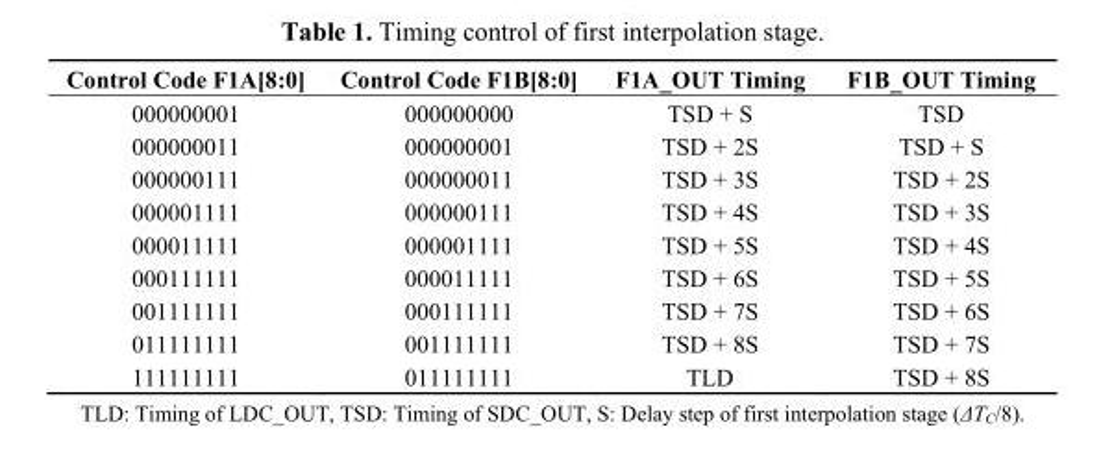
<table><thead><tr><td>Control Code F1A[8:0]</td><td>Control Code F1B[8:0]</td><td>F1A_OUT Timing</td><td>F1B_OUT Timing</td></tr></thead><tbody><tr><td>000000001</td><td>000000000</td><td>TSD + S</td><td>TSD</td></tr><tr><td>000000011</td><td>000000001</td><td>TSD + 2S</td><td>TSD + S</td></tr><tr><td>000000111</td><td>000000011</td><td>TSD + 3S</td><td>TSD + 2S</td></tr><tr><td>000001111</td><td>000000111</td><td>TSD + 4S</td><td>TSD + 3S</td></tr><tr><td>000011111</td><td>000001111</td><td>TSD + 5S</td><td>TSD + 4S</td></tr><tr><td>000111111</td><td>000011111</td><td>TSD + 6S</td><td>TSD + 5S</td></tr><tr><td>001111111</td><td>000111111</td><td>TSD + 7S</td><td>TSD + 6S</td></tr><tr><td>011111111</td><td>001111111</td><td>TSD + 8S</td><td>TSD + 7S</td></tr><tr><td>111111111</td><td>011111111</td><td>TLD</td><td>TSD + 8S</td></tr></tbody></table>